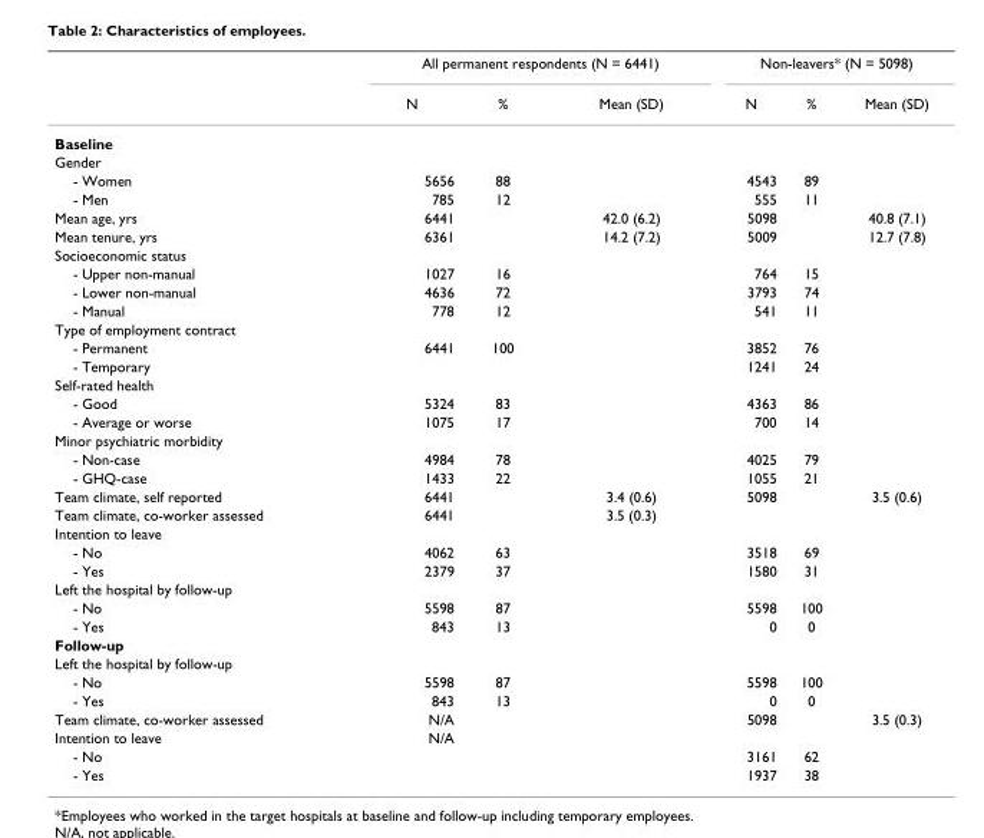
<table><thead><tr><td rowspan="2"></td><td colspan="3">All permanent respondents (N = 6441)</td><td colspan="3">Non-leavers* (N = 5098)</td></tr><tr><td>N</td><td>%</td><td>Mean (SD)</td><td>N</td><td>%</td><td>Mean (SD)</td></tr></thead><tbody><tr><td colspan="7">Baseline</td></tr><tr><td colspan="7">Gender</td></tr><tr><td>- Women</td><td>5656</td><td>88</td><td></td><td>4543</td><td>89</td><td></td></tr><tr><td>- Men</td><td>785</td><td>12</td><td></td><td>555</td><td>11</td><td></td></tr><tr><td>Mean age, yrs</td><td>6441</td><td></td><td>42.0 (6.2)</td><td>5098</td><td></td><td>40.8 (7.1)</td></tr><tr><td>Mean tenure, yrs</td><td>6361</td><td></td><td>14.2 (7.2)</td><td>5009</td><td></td><td>12.7 (7.8)</td></tr><tr><td colspan="7">Socioeconomic status</td></tr><tr><td>- Upper non-manual</td><td>1027</td><td>16</td><td></td><td>764</td><td>15</td><td></td></tr><tr><td>- Lower non-manual</td><td>4636</td><td>72</td><td></td><td>3793</td><td>74</td><td></td></tr><tr><td>- Manual</td><td>778</td><td>12</td><td></td><td>541</td><td>11</td><td></td></tr><tr><td colspan="7">Type of employment contract</td></tr><tr><td>- Permanent</td><td>6441</td><td>100</td><td></td><td>3852</td><td>76</td><td></td></tr><tr><td>- Temporary</td><td></td><td></td><td></td><td>1241</td><td>24</td><td></td></tr><tr><td colspan="7">Self-rated health</td></tr><tr><td>- Good</td><td>5324</td><td>83</td><td></td><td>4363</td><td>86</td><td></td></tr><tr><td>- Average or worse</td><td>1075</td><td>17</td><td></td><td>700</td><td>14</td><td></td></tr><tr><td colspan="7">Minor psychiatric morbidity</td></tr><tr><td>- Non-case</td><td>4984</td><td>78</td><td></td><td>4025</td><td>79</td><td></td></tr><tr><td>- GHQ-case</td><td>1433</td><td>22</td><td></td><td>1055</td><td>21</td><td></td></tr><tr><td>Team climate, self reported</td><td>6441</td><td></td><td>3.4 (0.6)</td><td>5098</td><td></td><td>3.5 (0.6)</td></tr><tr><td>Team climate, co-worker assessed</td><td>6441</td><td></td><td>3.5 (0.3)</td><td></td><td></td><td></td></tr><tr><td colspan="7">Intention to leave</td></tr><tr><td>- No</td><td>4062</td><td>63</td><td></td><td>3518</td><td>69</td><td></td></tr><tr><td>- Yes</td><td>2379</td><td>37</td><td></td><td>1580</td><td>31</td><td></td></tr><tr><td colspan="7">Left the hospital by follow-up</td></tr><tr><td>- No</td><td>5598</td><td>87</td><td></td><td>5598</td><td>100</td><td></td></tr><tr><td>- Yes</td><td>843</td><td>13</td><td></td><td>0</td><td>0</td><td></td></tr><tr><td colspan="7">Follow-up</td></tr><tr><td colspan="7">Left the hospital by follow-up</td></tr><tr><td>- No</td><td>5598</td><td>87</td><td></td><td>5598</td><td>100</td><td></td></tr><tr><td>- Yes</td><td>843</td><td>13</td><td></td><td>0</td><td>0</td><td></td></tr><tr><td>Team climate, co-worker assessed</td><td>N/A</td><td></td><td></td><td>5098</td><td></td><td>3.5 (0.3)</td></tr><tr><td>Intention to leave</td><td>N/A</td><td></td><td></td><td></td><td></td><td></td></tr><tr><td>- No</td><td></td><td></td><td></td><td>3161</td><td>62</td><td></td></tr><tr><td>- Yes</td><td></td><td></td><td></td><td>1937</td><td>38</td><td></td></tr></tbody></table>